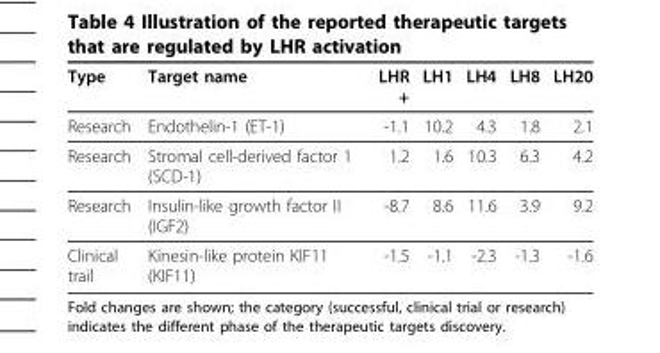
<table><thead><tr><td>Type</td><td>Target name</td><td>LHR +</td><td>LH1</td><td>LH4</td><td>LH8</td><td>LH20</td></tr></thead><tbody><tr><td>Research</td><td>Endothelin-1 (ET-1)</td><td>-1.1</td><td>10.2</td><td>4.3</td><td>1.8</td><td>2.1</td></tr><tr><td>Research</td><td>Stromal cell-derived factor 1 (SCD-1)</td><td>1.2</td><td>1.6</td><td>10.3</td><td>6.3</td><td>4.2</td></tr><tr><td>Research</td><td>Insulin-like growth factor II (IGF2)</td><td>-8.7</td><td>8.6</td><td>11.6</td><td>3.9</td><td>9.2</td></tr><tr><td>Clinical trail</td><td>Kinesin-like protein KIF11 (KIF11)</td><td>-1.5</td><td>-1.1</td><td>-2.3</td><td>-1.3</td><td>-1.6</td></tr></tbody></table>